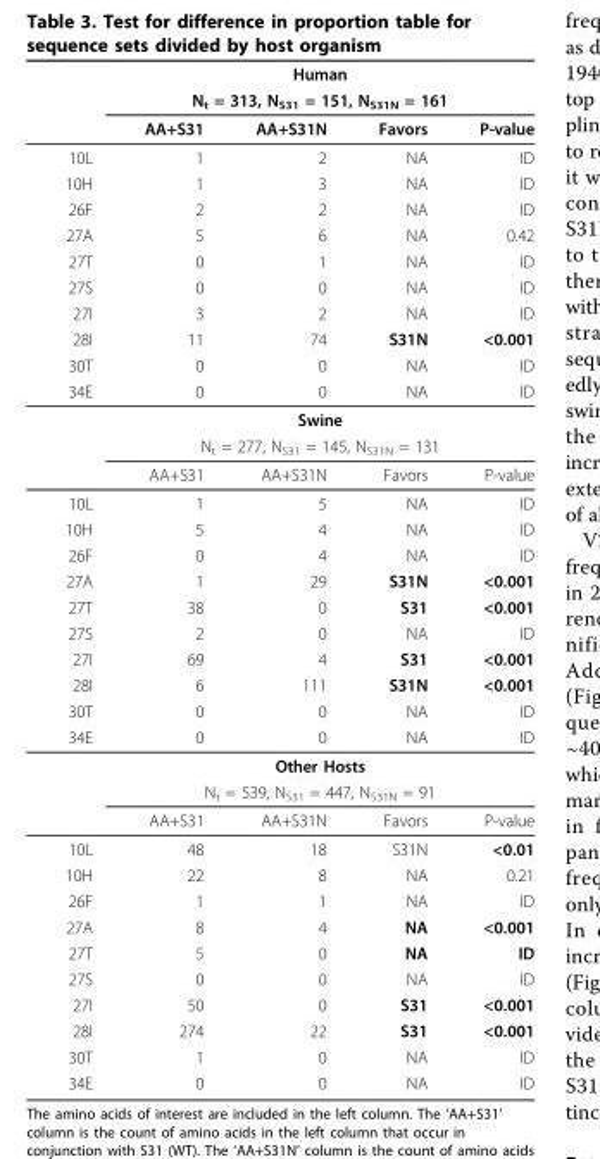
<table><thead><tr><td rowspan="3"></td><td rowspan="2" colspan="4">Human N<sub>t</sub> = 313, N<sub>S31</sub> = 151, N<sub>S31N</sub> = 161</td></tr><tr></tr><tr><td>AA+S31</td><td>AA+S31N</td><td>Favors</td><td>P-value</td></tr></thead><tbody><tr><td>10L</td><td>1</td><td>2</td><td>NA</td><td>ID</td></tr><tr><td>10H</td><td>1</td><td>3</td><td>NA</td><td>ID</td></tr><tr><td>26F</td><td>2</td><td>2</td><td>NA</td><td>ID</td></tr><tr><td>27A</td><td>5</td><td>6</td><td>NA</td><td>0.42</td></tr><tr><td>27T</td><td>0</td><td>1</td><td>NA</td><td>ID</td></tr><tr><td>27S</td><td>0</td><td>0</td><td>NA</td><td>ID</td></tr><tr><td>27I</td><td>3</td><td>2</td><td>NA</td><td>ID</td></tr><tr><td>28I</td><td>11</td><td>74</td><td>S31N</td><td>&lt;0.001</td></tr><tr><td>30T</td><td>0</td><td>0</td><td>NA</td><td>ID</td></tr><tr><td rowspan="4">34E</td><td>0</td><td>0</td><td>NA</td><td>ID</td></tr><tr><td colspan="4">Swine</td></tr><tr><td colspan="4">N<sub>t</sub> = 277, N<sub>S31</sub> = 145, N<sub>S31N</sub> = 131</td></tr><tr><td>AA+S31</td><td>AA+S31N</td><td>Favors</td><td>P-value</td></tr><tr><td>10L</td><td>1</td><td>5</td><td>NA</td><td>ID</td></tr><tr><td>10H</td><td>5</td><td>4</td><td>NA</td><td>ID</td></tr><tr><td>26F</td><td>0</td><td>4</td><td>NA</td><td>ID</td></tr><tr><td>27A</td><td>1</td><td>29</td><td>S31N</td><td>&lt;0.001</td></tr><tr><td>27T</td><td>38</td><td>0</td><td>S31</td><td>&lt;0.001</td></tr><tr><td>27S</td><td>2</td><td>0</td><td>NA</td><td>ID</td></tr><tr><td>27I</td><td>69</td><td>4</td><td>S31</td><td>&lt;0.001</td></tr><tr><td>28I</td><td>6</td><td>111</td><td>S31N</td><td>&lt;0.001</td></tr><tr><td>30T</td><td>0</td><td>0</td><td>NA</td><td>ID</td></tr><tr><td rowspan="4">34E</td><td>0</td><td>0</td><td>NA</td><td>ID</td></tr><tr><td colspan="4">Other Hosts</td></tr><tr><td colspan="4">N<sub>t</sub> = 539, N<sub>S31</sub> = 447, N<sub>S31N</sub> = 91</td></tr><tr><td>AA+S31</td><td>AA+S31N</td><td>Favors</td><td>P-value</td></tr><tr><td>10L</td><td>48</td><td>18</td><td>S31N</td><td>&lt;0.01</td></tr><tr><td>10H</td><td>22</td><td>8</td><td>NA</td><td>0.21</td></tr><tr><td>26F</td><td>1</td><td>1</td><td>NA</td><td>ID</td></tr><tr><td>27A</td><td>8</td><td>4</td><td>NA</td><td>&lt;0.001</td></tr><tr><td>27T</td><td>5</td><td>0</td><td>NA</td><td>ID</td></tr><tr><td>27S</td><td>0</td><td>0</td><td>NA</td><td>ID</td></tr><tr><td>27I</td><td>50</td><td>0</td><td>S31</td><td>&lt;0.001</td></tr><tr><td>28I</td><td>274</td><td>22</td><td>S31</td><td>&lt;0.001</td></tr><tr><td>30T</td><td>1</td><td>0</td><td>NA</td><td>ID</td></tr><tr><td>34E</td><td>0</td><td>0</td><td>NA</td><td>ID</td></tr></tbody></table>